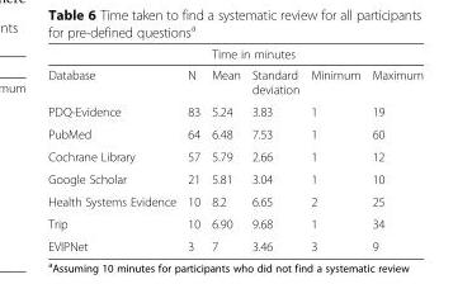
<table><thead><tr><td rowspan="2">Database</td><td rowspan="2">N</td><td colspan="4">Time in minutes</td></tr><tr><td>Mean</td><td>Standard deviation</td><td>Minimum</td><td>Maximum</td></tr></thead><tbody><tr><td>PDQ-Evidence</td><td>83</td><td>5.24</td><td>3.83</td><td>1</td><td>19</td></tr><tr><td>PubMed</td><td>64</td><td>6.48</td><td>7.53</td><td>1</td><td>60</td></tr><tr><td>Cochrane Library</td><td>57</td><td>5.79</td><td>2.66</td><td>1</td><td>12</td></tr><tr><td>Google Scholar</td><td>21</td><td>5.81</td><td>3.04</td><td>1</td><td>10</td></tr><tr><td>Health Systems Evidence</td><td>10</td><td>8.2</td><td>6.65</td><td>2</td><td>25</td></tr><tr><td>Trip</td><td>10</td><td>6.90</td><td>9.68</td><td>1</td><td>34</td></tr><tr><td>EVIPNet</td><td>3</td><td>7</td><td>3.46</td><td>3</td><td>9</td></tr></tbody></table>